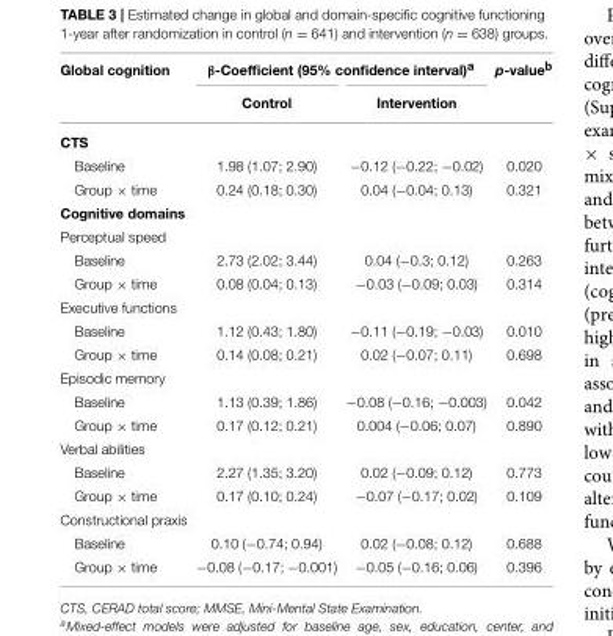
<table><thead><tr><td rowspan="2">Global cognition</td><td colspan="2">β-Coefficient (95% confidence interval)<sup>a</sup></td><td rowspan="2">p-value<sup>b</sup></td></tr><tr><td>Control</td><td>Intervention</td></tr></thead><tbody><tr><td colspan="4">CTS</td></tr><tr><td>Baseline</td><td>1.98 (1.07; 2.90)</td><td>−0.12 (−0.22; −0.02)</td><td>0.020</td></tr><tr><td>Group × time</td><td>0.24 (0.18; 0.30)</td><td>0.04 (−0.04; 0.13)</td><td>0.321</td></tr><tr><td colspan="4">Cognitive domains</td></tr><tr><td colspan="4">Perceptual speed</td></tr><tr><td>Baseline</td><td>2.73 (2.02; 3.44)</td><td>0.04 (−0.3; 0.12)</td><td>0.263</td></tr><tr><td>Group × time</td><td>0.08 (0.04; 0.13)</td><td>−0.03 (−0.09; 0.03)</td><td>0.314</td></tr><tr><td colspan="4">Executive functions</td></tr><tr><td>Baseline</td><td>1.12 (0.43; 1.80)</td><td>−0.11 (−0.19; −0.03)</td><td>0.010</td></tr><tr><td>Group × time</td><td>0.14 (0.08; 0.21)</td><td>0.02 (−0.07; 0.11)</td><td>0.698</td></tr><tr><td colspan="4">Episodic memory</td></tr><tr><td>Baseline</td><td>1.13 (0.39; 1.86)</td><td>−0.08 (−0.16; −0.003)</td><td>0.042</td></tr><tr><td>Group × time</td><td>0.17 (0.12; 0.21)</td><td>0.004 (−0.06; 0.07)</td><td>0.890</td></tr><tr><td colspan="4">Verbal abilities</td></tr><tr><td>Baseline</td><td>2.27 (1.35; 3.20)</td><td>0.02 (−0.09; 0.12)</td><td>0.773</td></tr><tr><td>Group × time</td><td>0.17 (0.10; 0.24)</td><td>−0.07 (−0.17; 0.02)</td><td>0.109</td></tr><tr><td colspan="4">Constructional praxis</td></tr><tr><td>Baseline</td><td>0.10 (−0.74; 0.94)</td><td>0.02 (−0.08; 0.12)</td><td>0.688</td></tr><tr><td>Group × time</td><td>−0.08 (−0.17; −0.001)</td><td>−0.05 (−0.16; 0.06)</td><td>0.396</td></tr></tbody></table>